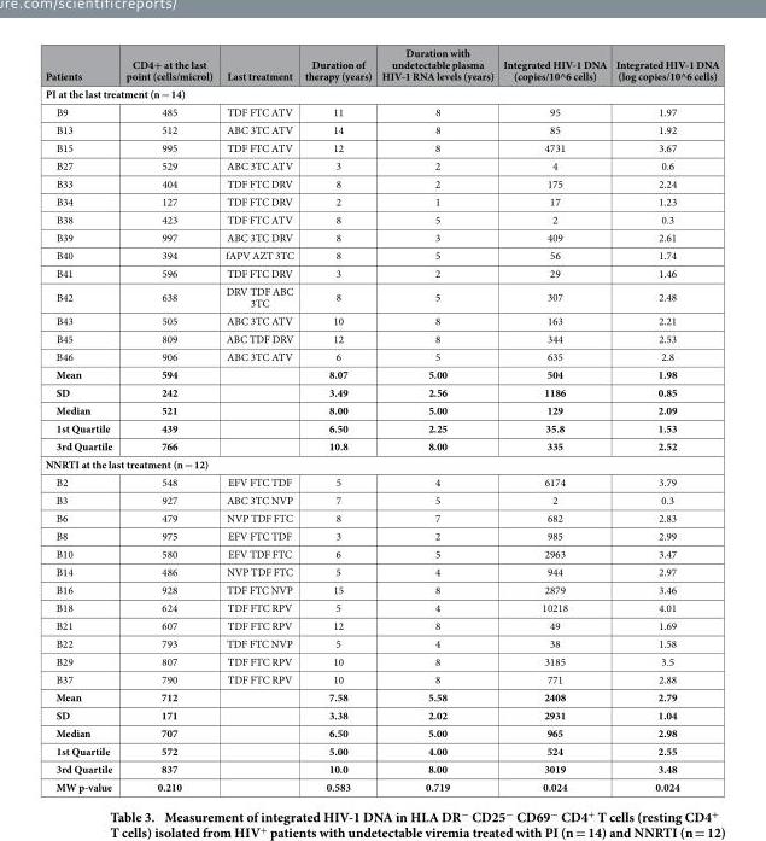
<table><thead><tr><td>Patients</td><td>CD4+ at the last point (cells/microl)</td><td>Last treatment</td><td>Duration of therapy (years)</td><td>Duration with undetectable plasma HIV-1 RNA levels (years)</td><td>Integrated HIV-1 DNA (copies/10^6 cells)</td><td>Integrated HIV-1 DNA (log copies/10^6 cells)</td></tr></thead><tbody><tr><td colspan="7">PI at the last treatment (n = 14)</td></tr><tr><td>B9</td><td>485</td><td>TDF FTC ATV</td><td>11</td><td>8</td><td>95</td><td>1.97</td></tr><tr><td>B13</td><td>512</td><td>ABC 3TC ATV</td><td>14</td><td>8</td><td>85</td><td>1.92</td></tr><tr><td>B15</td><td>995</td><td>TDF FTC ATV</td><td>12</td><td>8</td><td>4731</td><td>3.67</td></tr><tr><td>B27</td><td>529</td><td>ABC 3TC ATV</td><td>3</td><td>2</td><td>4</td><td>0.6</td></tr><tr><td>B33</td><td>404</td><td>TDF FTC DRV</td><td>8</td><td>2</td><td>175</td><td>2.24</td></tr><tr><td>B34</td><td>127</td><td>TDF FTC DRV</td><td>2</td><td>1</td><td>17</td><td>1.23</td></tr><tr><td>B38</td><td>423</td><td>TDF FTC ATV</td><td>8</td><td>5</td><td>2</td><td>0.3</td></tr><tr><td>B39</td><td>997</td><td>ABC 3TC DRV</td><td>8</td><td>3</td><td>409</td><td>2.61</td></tr><tr><td>B40</td><td>394</td><td>fAPV AZT 3TC</td><td>8</td><td>5</td><td>56</td><td>1.74</td></tr><tr><td>B41</td><td>596</td><td>TDF FTC DRV</td><td>3</td><td>2</td><td>29</td><td>1.46</td></tr><tr><td>B42</td><td>638</td><td>DRV TDF ABC 3TC</td><td>8</td><td>5</td><td>307</td><td>2.48</td></tr><tr><td>B43</td><td>505</td><td>ABC 3TC ATV</td><td>10</td><td>8</td><td>163</td><td>2.21</td></tr><tr><td>B45</td><td>809</td><td>ABC TDF DRV</td><td>12</td><td>8</td><td>344</td><td>2.53</td></tr><tr><td>B46</td><td>906</td><td>ABC 3TC ATV</td><td>6</td><td>5</td><td>635</td><td>2.8</td></tr><tr><td>Mean</td><td>594</td><td></td><td>8.07</td><td>5.00</td><td>504</td><td>1.98</td></tr><tr><td>SD</td><td>242</td><td></td><td>3.49</td><td>2.56</td><td>1186</td><td>0.85</td></tr><tr><td>Median</td><td>521</td><td></td><td>8.00</td><td>5.00</td><td>129</td><td>2.09</td></tr><tr><td>1st Quartile</td><td>439</td><td></td><td>6.50</td><td>2.25</td><td>35.8</td><td>1.53</td></tr><tr><td>3rd Quartile</td><td>766</td><td></td><td>10.8</td><td>8.00</td><td>335</td><td>2.52</td></tr><tr><td colspan="7">NNRTI at the last treatment (n = 12)</td></tr><tr><td>B2</td><td>548</td><td>EFV FTC TDF</td><td>5</td><td>4</td><td>6174</td><td>3.79</td></tr><tr><td>B3</td><td>927</td><td>ABC 3TC NVP</td><td>7</td><td>5</td><td>2</td><td>0.3</td></tr><tr><td>B6</td><td>479</td><td>NVP TDF FTC</td><td>8</td><td>7</td><td>682</td><td>2.83</td></tr><tr><td>B8</td><td>975</td><td>EFV FTC TDF</td><td>3</td><td>2</td><td>985</td><td>2.99</td></tr><tr><td>B10</td><td>580</td><td>EFV TDF FTC</td><td>6</td><td>5</td><td>2963</td><td>3.47</td></tr><tr><td>B14</td><td>486</td><td>NVP TDF FTC</td><td>5</td><td>4</td><td>944</td><td>2.97</td></tr><tr><td>B16</td><td>928</td><td>TDF FTC NVP</td><td>15</td><td>8</td><td>2879</td><td>3.46</td></tr><tr><td>B18</td><td>624</td><td>TDF FTC RPV</td><td>5</td><td>4</td><td>10218</td><td>4.01</td></tr><tr><td>B21</td><td>607</td><td>TDF FTC RPV</td><td>12</td><td>8</td><td>49</td><td>1.69</td></tr><tr><td>B22</td><td>793</td><td>TDF FTC NVP</td><td>5</td><td>4</td><td>38</td><td>1.58</td></tr><tr><td>B29</td><td>807</td><td>TDF FTC RPV</td><td>10</td><td>8</td><td>3185</td><td>3.5</td></tr><tr><td>B37</td><td>790</td><td>TDF FTC RPV</td><td>10</td><td>8</td><td>771</td><td>2.88</td></tr><tr><td>Mean</td><td>712</td><td></td><td>7.58</td><td>5.58</td><td>2408</td><td>2.79</td></tr><tr><td>SD</td><td>171</td><td></td><td>3.38</td><td>2.02</td><td>2931</td><td>1.04</td></tr><tr><td>Median</td><td>707</td><td></td><td>6.50</td><td>5.00</td><td>965</td><td>2.98</td></tr><tr><td>1st Quartile</td><td>572</td><td></td><td>5.00</td><td>4.00</td><td>524</td><td>2.55</td></tr><tr><td>3rd Quartile</td><td>837</td><td></td><td>10.0</td><td>8.00</td><td>3019</td><td>3.48</td></tr><tr><td>MW p-value</td><td>0.210</td><td></td><td>0.583</td><td>0.719</td><td>0.024</td><td>0.024</td></tr></tbody></table>